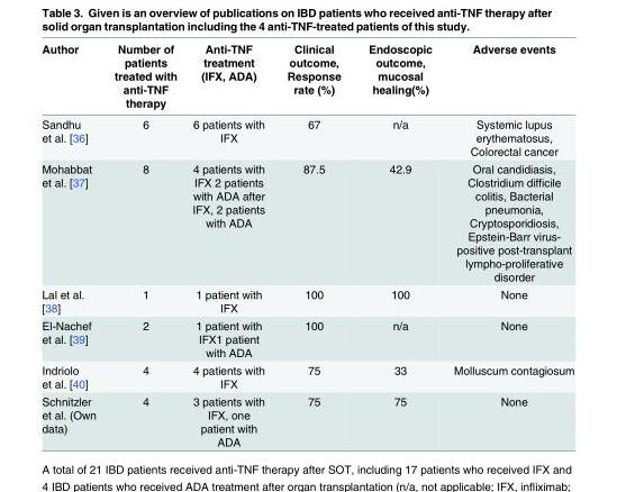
<table><thead><tr><td>Author</td><td>Number of patients treated with anti-TNF therapy</td><td>Anti-TNF treatment (IFX, ADA)</td><td>Clinical outcome, Response rate (%)</td><td>Endoscopic outcome, mucosal healing(%)</td><td>Adverse events</td></tr></thead><tbody><tr><td>Sandhu et al. [36]</td><td>6</td><td>6 patients with IFX</td><td>67</td><td>n/a</td><td>Systemic lupus erythematosus, Colorectal cancer</td></tr><tr><td>Mohabbat et al. [37]</td><td>8</td><td>4 patients with IFX 2 patients with ADA after IFX, 2 patients with ADA</td><td>87.5</td><td>42.9</td><td>Oral candidiasis, Clostridium difficile colitis, Bacterial pneumonia, Cryptosporidiosis, Epstein-Barr virus- positive post-transplant lympho-proliferative disorder</td></tr><tr><td>Lal et al. [38]</td><td>1</td><td>1 patient with IFX</td><td>100</td><td>100</td><td>None</td></tr><tr><td>El-Nachef et al. [39]</td><td>2</td><td>1 patient with IFX1 patient with ADA</td><td>100</td><td>n/a</td><td>None</td></tr><tr><td>Indriolo et al. [40]</td><td>4</td><td>4 patients with IFX</td><td>75</td><td>33</td><td>Molluscum contagiosum</td></tr><tr><td>Schnitzler et al. (Own data)</td><td>4</td><td>3 patients with IFX, one patient with ADA</td><td>75</td><td>75</td><td>None</td></tr></tbody></table>